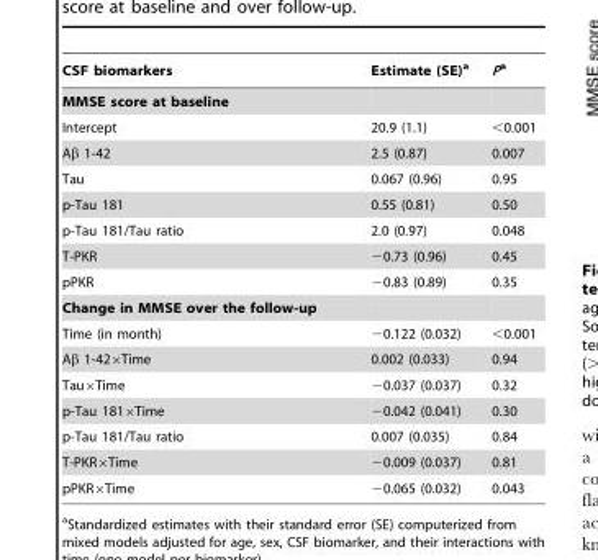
<table><thead><tr><td>CSF biomarkers</td><td>Estimate (SE)<sup>a</sup></td><td>Pa</td></tr></thead><tbody><tr><td colspan="3">MMSE score at baseline</td></tr><tr><td>Intercept</td><td>20.9 (1.1)</td><td>&lt;0.001</td></tr><tr><td>Aβ 1-42</td><td>2.5 (0.87)</td><td>0.007</td></tr><tr><td>Tau</td><td>0.067 (0.96)</td><td>0.95</td></tr><tr><td>p-Tau 181</td><td>0.55 (0.81)</td><td>0.50</td></tr><tr><td>p-Tau 181/Tau ratio</td><td>2.0 (0.97)</td><td>0.048</td></tr><tr><td>T-PKR</td><td>−0.73 (0.96)</td><td>0.45</td></tr><tr><td>pPKR</td><td>−0.83 (0.89)</td><td>0.35</td></tr><tr><td colspan="3">Change in MMSE over the follow-up</td></tr><tr><td>Time (in month)</td><td>−0.122 (0.032)</td><td>&lt;0.001</td></tr><tr><td>Aβ 1-42×Time</td><td>0.002 (0.033)</td><td>0.94</td></tr><tr><td>Tau×Time</td><td>−0.037 (0.037)</td><td>0.32</td></tr><tr><td>p-Tau 181×Time</td><td>−0.042 (0.041)</td><td>0.30</td></tr><tr><td>p-Tau 181/Tau ratio</td><td>0.007 (0.035)</td><td>0.84</td></tr><tr><td>T-PKR×Time</td><td>−0.009 (0.037)</td><td>0.81</td></tr><tr><td>pPKR×Time</td><td>−0.065 (0.032)</td><td>0.043</td></tr></tbody></table>